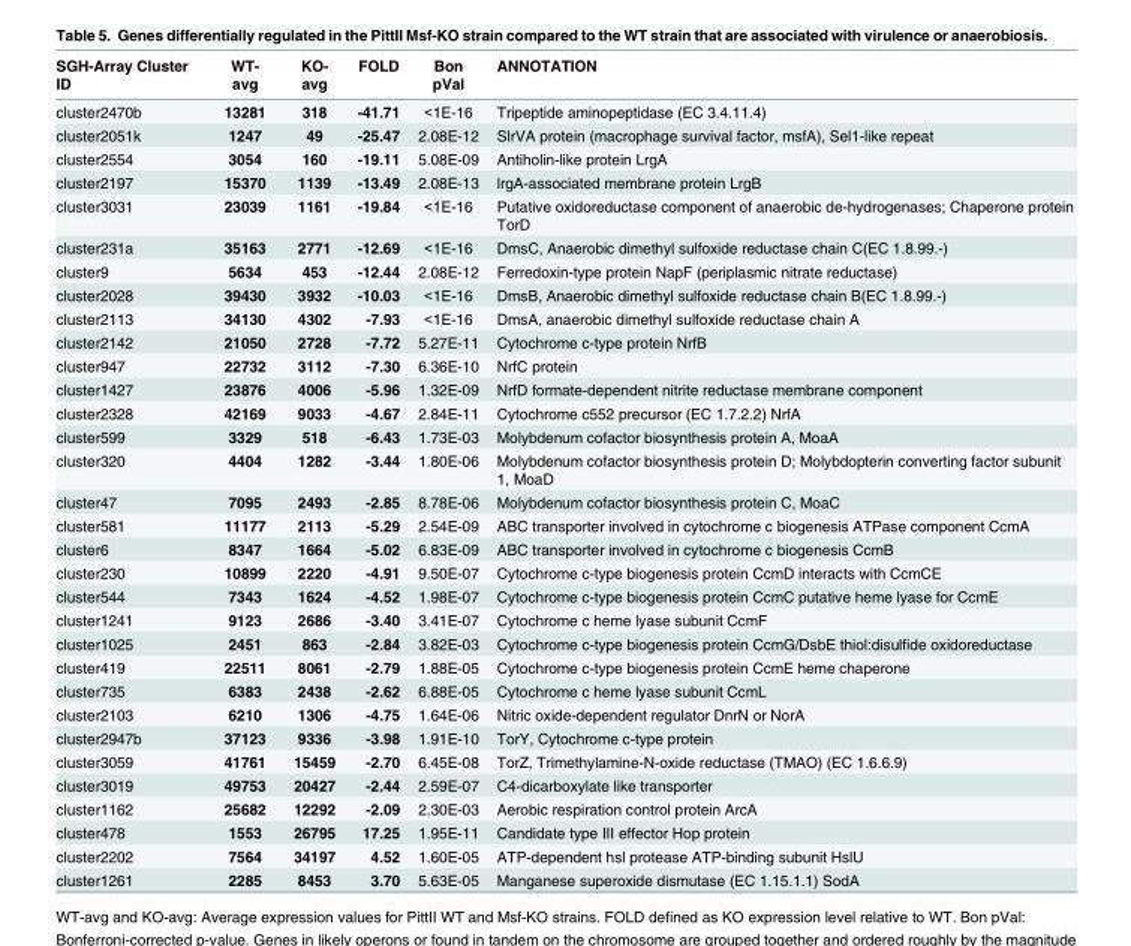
<table><thead><tr><td>SGH-Array Cluster ID</td><td>WT- avg</td><td>KO- avg</td><td>FOLD</td><td>Bon pVal</td><td>ANNOTATION</td></tr></thead><tbody><tr><td>cluster2470b</td><td>13281</td><td>318</td><td>-41.71</td><td>&lt;1E-16</td><td>Tripeptide aminopeptidase (EC 3.4.11.4)</td></tr><tr><td>cluster2051k</td><td>1247</td><td>49</td><td>-25.47</td><td>2.08E-12</td><td>SlrVA protein (macrophage survival factor, msfA), Sel1-like repeat</td></tr><tr><td>cluster2554</td><td>3054</td><td>160</td><td>-19.11</td><td>5.08E-09</td><td>Antiholin-like protein LrgA</td></tr><tr><td>cluster2197</td><td>15370</td><td>1139</td><td>-13.49</td><td>2.08E-13</td><td>lrgA-associated membrane protein LrgB</td></tr><tr><td>cluster3031</td><td>23039</td><td>1161</td><td>-19.84</td><td>&lt;1E-16</td><td>Putative oxidoreductase component of anaerobic de-hydrogenases; Chaperone protein TorD</td></tr><tr><td>cluster231a</td><td>35163</td><td>2771</td><td>-12.69</td><td>&lt;1E-16</td><td>DmsC, Anaerobic dimethyl sulfoxide reductase chain C(EC 1.8.99.-)</td></tr><tr><td>cluster9</td><td>5634</td><td>453</td><td>-12.44</td><td>2.08E-12</td><td>Ferredoxin-type protein NapF (periplasmic nitrate reductase)</td></tr><tr><td>cluster2028</td><td>39430</td><td>3932</td><td>-10.03</td><td>&lt;1E-16</td><td>DmsB, Anaerobic dimethyl sulfoxide reductase chain B(EC 1.8.99.-)</td></tr><tr><td>cluster2113</td><td>34130</td><td>4302</td><td>-7.93</td><td>&lt;1E-16</td><td>DmsA, anaerobic dimethyl sulfoxide reductase chain A</td></tr><tr><td>cluster2142</td><td>21050</td><td>2728</td><td>-7.72</td><td>5.27E-11</td><td>Cytochrome c-type protein NrfB</td></tr><tr><td>cluster947</td><td>22732</td><td>3112</td><td>-7.30</td><td>6.36E-10</td><td>NrfC protein</td></tr><tr><td>cluster1427</td><td>23876</td><td>4006</td><td>-5.96</td><td>1.32E-09</td><td>NrfD formate-dependent nitrite reductase membrane component</td></tr><tr><td>cluster2328</td><td>42169</td><td>9033</td><td>-4.67</td><td>2.84E-11</td><td>Cytochrome c552 precursor (EC 1.7.2.2) NrfA</td></tr><tr><td>cluster599</td><td>3329</td><td>518</td><td>-6.43</td><td>1.73E-03</td><td>Molybdenum cofactor biosynthesis protein A, MoaA</td></tr><tr><td>cluster320</td><td>4404</td><td>1282</td><td>-3.44</td><td>1.80E-06</td><td>Molybdenum cofactor biosynthesis protein D; Molybdopterin converting factor subunit 1, MoaD</td></tr><tr><td>cluster47</td><td>7095</td><td>2493</td><td>-2.85</td><td>8.78E-06</td><td>Molybdenum cofactor biosynthesis protein C, MoaC</td></tr><tr><td>cluster581</td><td>11177</td><td>2113</td><td>-5.29</td><td>2.54E-09</td><td>ABC transporter involved in cytochrome c biogenesis ATPase component CcmA</td></tr><tr><td>cluster6</td><td>8347</td><td>1664</td><td>-5.02</td><td>6.83E-09</td><td>ABC transporter involved in cytochrome c biogenesis CcmB</td></tr><tr><td>cluster230</td><td>10899</td><td>2220</td><td>-4.91</td><td>9.50E-07</td><td>Cytochrome c-type biogenesis protein CcmD interacts with CcmCE</td></tr><tr><td>cluster544</td><td>7343</td><td>1624</td><td>-4.52</td><td>1.98E-07</td><td>Cytochrome c-type biogenesis protein CcmC putative heme lyase for CcmE</td></tr><tr><td>cluster1241</td><td>9123</td><td>2686</td><td>-3.40</td><td>3.41E-07</td><td>Cytochrome c heme lyase subunit CcmF</td></tr><tr><td>cluster1025</td><td>2451</td><td>863</td><td>-2.84</td><td>3.82E-03</td><td>Cytochrome c-type biogenesis protein CcmG/DsbE thiol:disulfide oxidoreductase</td></tr><tr><td>cluster419</td><td>22511</td><td>8061</td><td>-2.79</td><td>1.88E-05</td><td>Cytochrome c-type biogenesis protein CcmE heme chaperone</td></tr><tr><td>cluster735</td><td>6383</td><td>2438</td><td>-2.62</td><td>6.88E-05</td><td>Cytochrome c heme lyase subunit CcmL</td></tr><tr><td>cluster2103</td><td>6210</td><td>1306</td><td>-4.75</td><td>1.64E-06</td><td>Nitric oxide-dependent regulator DnrN or NorA</td></tr><tr><td>cluster2947b</td><td>37123</td><td>9336</td><td>-3.98</td><td>1.91E-10</td><td>TorY, Cytochrome c-type protein</td></tr><tr><td>cluster3059</td><td>41761</td><td>15459</td><td>-2.70</td><td>6.45E-08</td><td>TorZ, Trimethylamine-N-oxide reductase (TMAO) (EC 1.6.6.9)</td></tr><tr><td>cluster3019</td><td>49753</td><td>20427</td><td>-2.44</td><td>2.59E-07</td><td>C4-dicarboxylate like transporter</td></tr><tr><td>cluster1162</td><td>25682</td><td>12292</td><td>-2.09</td><td>2.30E-03</td><td>Aerobic respiration control protein ArcA</td></tr><tr><td>cluster478</td><td>1553</td><td>26795</td><td>17.25</td><td>1.95E-11</td><td>Candidate type III effector Hop protein</td></tr><tr><td>cluster2202</td><td>7564</td><td>34197</td><td>4.52</td><td>1.60E-05</td><td>ATP-dependent hsl protease ATP-binding subunit HslU</td></tr><tr><td>cluster1261</td><td>2285</td><td>8453</td><td>3.70</td><td>5.63E-05</td><td>Manganese superoxide dismutase (EC 1.15.1.1) SodA</td></tr></tbody></table>